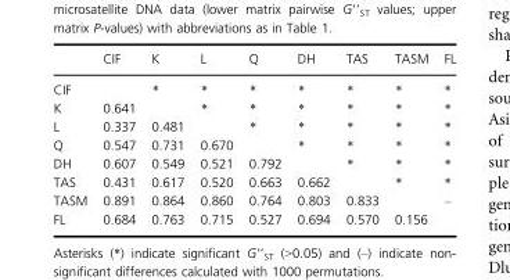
<table><thead><tr><td></td><td>CIF</td><td>K</td><td>L</td><td>Q</td><td>DH</td><td>TAS</td><td>TASM</td><td>FL</td></tr></thead><tbody><tr><td>CIF</td><td></td><td>*</td><td>*</td><td>*</td><td>*</td><td>*</td><td>*</td><td>*</td></tr><tr><td>K</td><td>0.641</td><td></td><td>*</td><td>*</td><td>*</td><td>*</td><td>*</td><td>*</td></tr><tr><td>L</td><td>0.337</td><td>0.481</td><td></td><td>*</td><td>*</td><td>*</td><td>*</td><td>*</td></tr><tr><td>Q</td><td>0.547</td><td>0.731</td><td>0.670</td><td></td><td>*</td><td>*</td><td>*</td><td>*</td></tr><tr><td>DH</td><td>0.607</td><td>0.549</td><td>0.521</td><td>0.792</td><td></td><td>*</td><td>*</td><td>*</td></tr><tr><td>TAS</td><td>0.431</td><td>0.617</td><td>0.520</td><td>0.663</td><td>0.662</td><td></td><td>*</td><td>*</td></tr><tr><td>TASM</td><td>0.891</td><td>0.864</td><td>0.860</td><td>0.764</td><td>0.803</td><td>0.833</td><td></td><td>–</td></tr><tr><td>FL</td><td>0.684</td><td>0.763</td><td>0.715</td><td>0.527</td><td>0.694</td><td>0.570</td><td>0.156</td><td></td></tr></tbody></table>